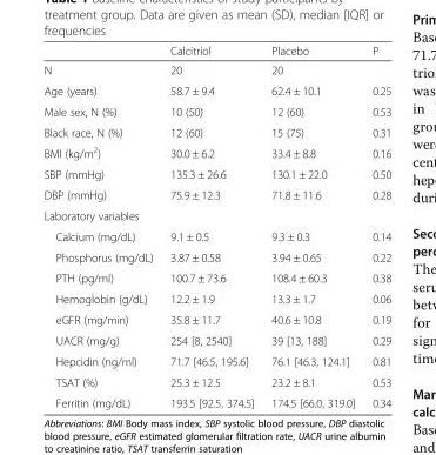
<table><thead><tr><td></td><td>Calcitriol</td><td>Placebo</td><td>P</td></tr></thead><tbody><tr><td>N</td><td>20</td><td>20</td><td></td></tr><tr><td>Age (years)</td><td>58.7 ± 9.4</td><td>62.4 ± 10.1</td><td>0.25</td></tr><tr><td>Male sex, N (%)</td><td>10 (50)</td><td>12 (60)</td><td>0.53</td></tr><tr><td>Black race, N (%)</td><td>12 (60)</td><td>15 (75)</td><td>0.31</td></tr><tr><td>BMI (kg/m<sup>2</sup>)</td><td>30.0 ± 6.2</td><td>33.4 ± 8.8</td><td>0.16</td></tr><tr><td>SBP (mmHg)</td><td>135.3 ± 26.6</td><td>130.1 ± 22.0</td><td>0.50</td></tr><tr><td>DBP (mmHg)</td><td>75.9 ± 12.3</td><td>71.8 ± 11.6</td><td>0.28</td></tr><tr><td colspan="4">Laboratory variables</td></tr><tr><td>Calcium (mg/dL)</td><td>9.1 ± 0.5</td><td>9.3 ± 0.3</td><td>0.14</td></tr><tr><td>Phosphorus (mg/dL)</td><td>3.87 ± 0.58</td><td>3.94 ± 0.65</td><td>0.22</td></tr><tr><td>PTH (pg/ml)</td><td>100.7 ± 73.6</td><td>108.4 ± 60.3</td><td>0.38</td></tr><tr><td>Hemoglobin (g/dL)</td><td>12.2 ± 1.9</td><td>13.3 ± 1.7</td><td>0.06</td></tr><tr><td>eGFR (mg/min)</td><td>35.8 ± 11.7</td><td>40.6 ± 10.8</td><td>0.19</td></tr><tr><td>UACR (mg/g)</td><td>254 [8, 2540]</td><td>39 [13, 188]</td><td>0.29</td></tr><tr><td>Hepcidin (ng/ml)</td><td>71.7 [46.5, 195.6]</td><td>76.1 [46.3, 124.1]</td><td>0.81</td></tr><tr><td>TSAT (%)</td><td>25.3 ± 12.5</td><td>23.2 ± 8.1</td><td>0.53</td></tr><tr><td>Ferritin (mg/dL)</td><td>193.5 [92.5, 374.5]</td><td>174.5 [66.0, 319.0]</td><td>0.34</td></tr></tbody></table>